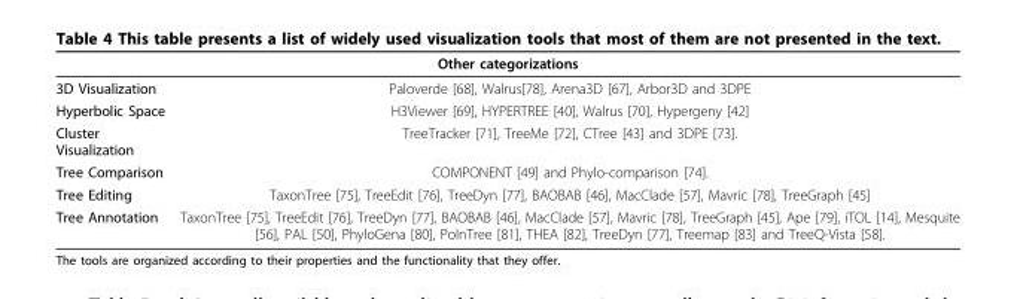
<table><thead><tr><td colspan="2">Other categorizations</td></tr><tr><td>3D Visualization</td><td>Paloverde [68], Walrus[78], Arena3D [67], Arbor3D and 3DPE</td></tr></thead><tbody><tr><td>Hyperbolic Space</td><td>H3Viewer [69], HYPERTREE [40], Walrus [70], Hypergeny [42]</td></tr><tr><td>Cluster Visualization</td><td>TreeTracker [71], TreeMe [72], CTree [43] and 3DPE [73].</td></tr><tr><td>Tree Comparison</td><td>COMPONENT [49] and Phylo-comparison [74].</td></tr><tr><td>Tree Editing</td><td>TaxonTree [75], TreeEdit [76], TreeDyn [77], BAOBAB [46], MacClade [57], Mavric [78], TreeGraph [45]</td></tr><tr><td>Tree Annotation</td><td>TaxonTree [75], TreeEdit [76], TreeDyn [77], BAOBAB [46], MacClade [57], Mavric [78], TreeGraph [45], Ape [79], iTOL [14], Mesquite [56], PAL [50], PhyloGena [80], PoInTree [81], THEA [82], TreeDyn [77], Treemap [83] and TreeQ-Vista [58].</td></tr></tbody></table>